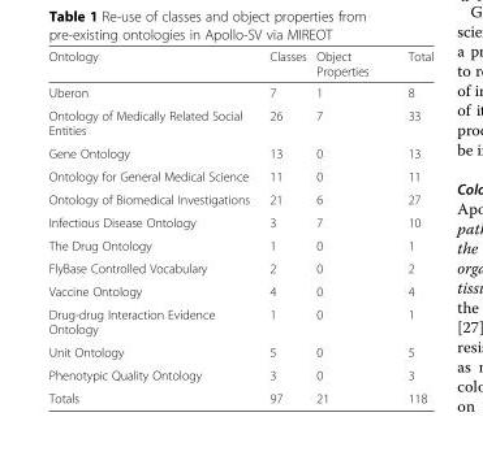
<table><thead><tr><td>Ontology</td><td>Classes</td><td>Object Properties</td><td>Total</td></tr></thead><tbody><tr><td>Uberon</td><td>7</td><td>1</td><td>8</td></tr><tr><td>Ontology of Medically Related Social Entities</td><td>26</td><td>7</td><td>33</td></tr><tr><td>Gene Ontology</td><td>13</td><td>0</td><td>13</td></tr><tr><td>Ontology for General Medical Science</td><td>11</td><td>0</td><td>11</td></tr><tr><td>Ontology of Biomedical Investigations</td><td>21</td><td>6</td><td>27</td></tr><tr><td>Infectious Disease Ontology</td><td>3</td><td>7</td><td>10</td></tr><tr><td>The Drug Ontology</td><td>1</td><td>0</td><td>1</td></tr><tr><td>FlyBase Controlled Vocabulary</td><td>2</td><td>0</td><td>2</td></tr><tr><td>Vaccine Ontology</td><td>4</td><td>0</td><td>4</td></tr><tr><td>Drug-drug Interaction Evidence Ontology</td><td>1</td><td>0</td><td>1</td></tr><tr><td>Unit Ontology</td><td>5</td><td>0</td><td>5</td></tr><tr><td>Phenotypic Quality Ontology</td><td>3</td><td>0</td><td>3</td></tr><tr><td>Totals</td><td>97</td><td>21</td><td>118</td></tr></tbody></table>